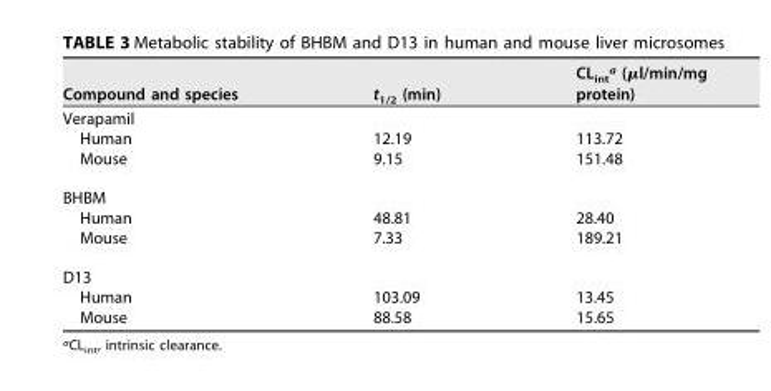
<table><thead><tr><td>Compound and species</td><td>t<sub>1/2</sub> (min)</td><td>CL<sub>int</sub><sup>a</sup> (μl/min/mg protein)</td></tr></thead><tbody><tr><td colspan="3">Verapamil</td></tr><tr><td>Human</td><td>12.19</td><td>113.72</td></tr><tr><td>Mouse</td><td>9.15</td><td>151.48</td></tr><tr><td colspan="3">BHBM</td></tr><tr><td>Human</td><td>48.81</td><td>28.40</td></tr><tr><td>Mouse</td><td>7.33</td><td>189.21</td></tr><tr><td colspan="3">D13</td></tr><tr><td>Human</td><td>103.09</td><td>13.45</td></tr><tr><td>Mouse</td><td>88.58</td><td>15.65</td></tr></tbody></table>